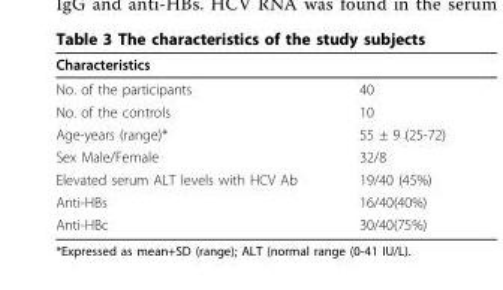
<table><thead><tr><td>Characteristics</td><td></td></tr></thead><tbody><tr><td>No. of the participants</td><td>40</td></tr><tr><td>No. of the controls</td><td>10</td></tr><tr><td>Age-years (range)*</td><td>55 ± 9 (25-72)</td></tr><tr><td>Sex Male/Female</td><td>32/8</td></tr><tr><td>Elevated serum ALT levels with HCV Ab</td><td>19/40 (45%)</td></tr><tr><td>Anti-HBs</td><td>16/40(40%)</td></tr><tr><td>Anti-HBc</td><td>30/40(75%)</td></tr></tbody></table>